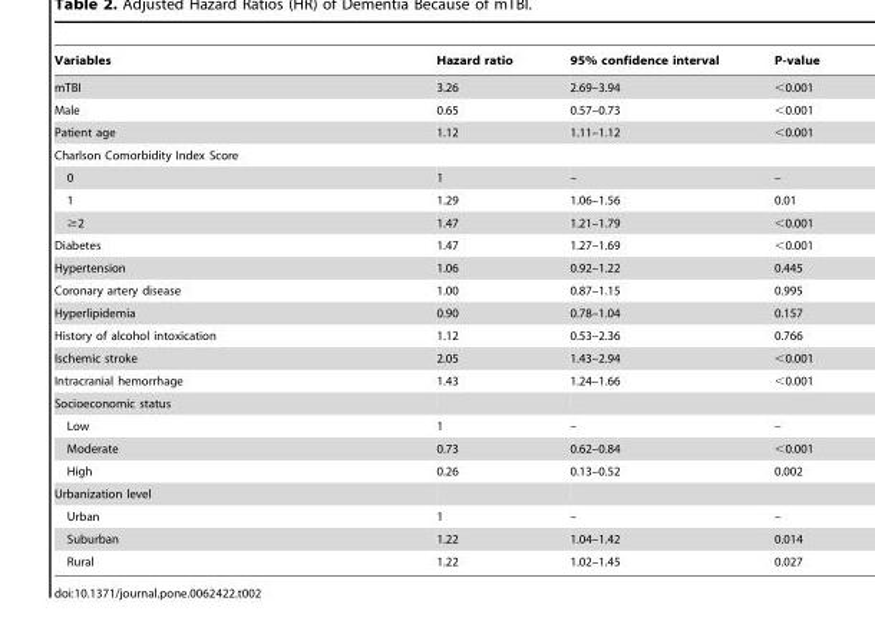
<table><thead><tr><td>Variables</td><td>Hazard ratio</td><td>95% confidence interval</td><td>P-value</td></tr></thead><tbody><tr><td>mTBI</td><td>3.26</td><td>2.69–3.94</td><td>&lt;0.001</td></tr><tr><td>Male</td><td>0.65</td><td>0.57–0.73</td><td>&lt;0.001</td></tr><tr><td>Patient age</td><td>1.12</td><td>1.11–1.12</td><td>&lt;0.001</td></tr><tr><td colspan="4">Charlson Comorbidity Index Score</td></tr><tr><td>0</td><td>1</td><td>–</td><td>–</td></tr><tr><td>1</td><td>1.29</td><td>1.06–1.56</td><td>0.01</td></tr><tr><td>≥2</td><td>1.47</td><td>1.21–1.79</td><td>&lt;0.001</td></tr><tr><td>Diabetes</td><td>1.47</td><td>1.27–1.69</td><td>&lt;0.001</td></tr><tr><td>Hypertension</td><td>1.06</td><td>0.92–1.22</td><td>0.445</td></tr><tr><td>Coronary artery disease</td><td>1.00</td><td>0.87–1.15</td><td>0.995</td></tr><tr><td>Hyperlipidemia</td><td>0.90</td><td>0.78–1.04</td><td>0.157</td></tr><tr><td>History of alcohol intoxication</td><td>1.12</td><td>0.53–2.36</td><td>0.766</td></tr><tr><td>Ischemic stroke</td><td>2.05</td><td>1.43–2.94</td><td>&lt;0.001</td></tr><tr><td>Intracranial hemorrhage</td><td>1.43</td><td>1.24–1.66</td><td>&lt;0.001</td></tr><tr><td colspan="4">Socioeconomic status</td></tr><tr><td>Low</td><td>1</td><td>–</td><td>–</td></tr><tr><td>Moderate</td><td>0.73</td><td>0.62–0.84</td><td>&lt;0.001</td></tr><tr><td>High</td><td>0.26</td><td>0.13–0.52</td><td>0.002</td></tr><tr><td colspan="4">Urbanization level</td></tr><tr><td>Urban</td><td>1</td><td>–</td><td>–</td></tr><tr><td>Suburban</td><td>1.22</td><td>1.04–1.42</td><td>0.014</td></tr><tr><td>Rural</td><td>1.22</td><td>1.02–1.45</td><td>0.027</td></tr></tbody></table>